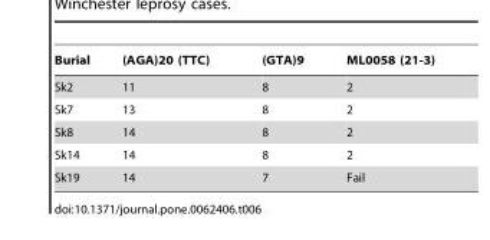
<table><thead><tr><td>Burial</td><td>(AGA)20 (TTC)</td><td>(GTA)9</td><td>ML0058 (21-3)</td></tr></thead><tbody><tr><td>Sk2</td><td>11</td><td>8</td><td>2</td></tr><tr><td>Sk7</td><td>13</td><td>8</td><td>2</td></tr><tr><td>Sk8</td><td>14</td><td>8</td><td>2</td></tr><tr><td>Sk14</td><td>14</td><td>8</td><td>2</td></tr><tr><td>Sk19</td><td>14</td><td>7</td><td>Fail</td></tr></tbody></table>